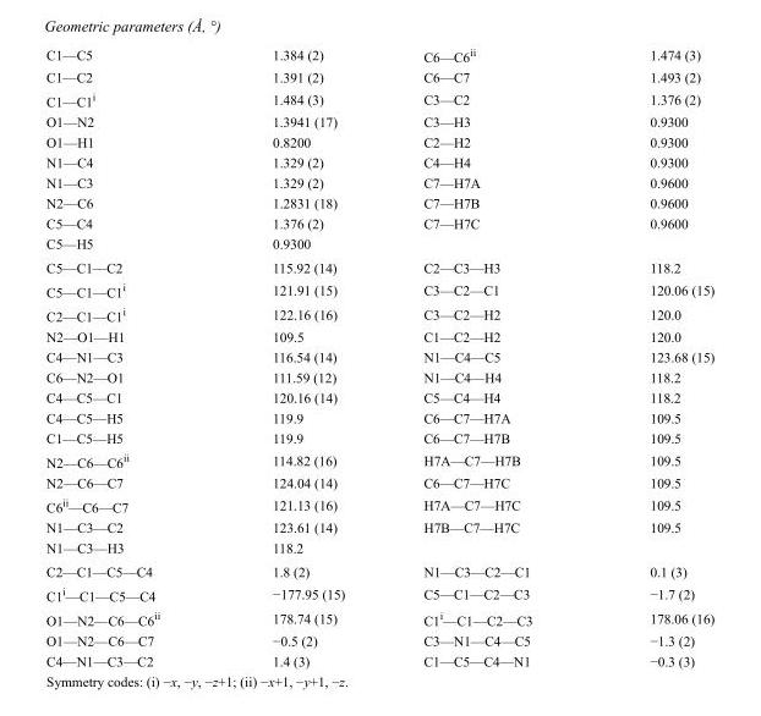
<table><tbody><tr><td>C1—C5</td><td>1.384 (2)</td><td>C6—C6<sup>ii</sup></td><td>1.474 (3)</td></tr><tr><td>C1—C2</td><td>1.391 (2)</td><td>C6—C7</td><td>1.493 (2)</td></tr><tr><td>C1—C1<sup>i</sup></td><td>1.484 (3)</td><td>C3—C2</td><td>1.376 (2)</td></tr><tr><td>O1—N2</td><td>1.3941 (17)</td><td>C3—H3</td><td>0.9300</td></tr><tr><td>O1—H1</td><td>0.8200</td><td>C2—H2</td><td>0.9300</td></tr><tr><td>N1—C4</td><td>1.329 (2)</td><td>C4—H4</td><td>0.9300</td></tr><tr><td>N1—C3</td><td>1.329 (2)</td><td>C7—H7A</td><td>0.9600</td></tr><tr><td>N2—C6</td><td>1.2831 (18)</td><td>C7—H7B</td><td>0.9600</td></tr><tr><td>C5—C4</td><td>1.376 (2)</td><td>C7—H7C</td><td>0.9600</td></tr><tr><td>C5—H5</td><td>0.9300</td><td></td><td></td></tr><tr><td>C5—C1—C2</td><td>115.92 (14)</td><td>C2—C3—H3</td><td>118.2</td></tr><tr><td>C5—C1—C1<sup>i</sup></td><td>121.91 (15)</td><td>C3—C2—C1</td><td>120.06 (15)</td></tr><tr><td>C2—C1—C1<sup>i</sup></td><td>122.16 (16)</td><td>C3—C2—H2</td><td>120.0</td></tr><tr><td>N2—O1—H1</td><td>109.5</td><td>C1—C2—H2</td><td>120.0</td></tr><tr><td>C4—N1—C3</td><td>116.54 (14)</td><td>N1—C4—C5</td><td>123.68 (15)</td></tr><tr><td>C6—N2—O1</td><td>111.59 (12)</td><td>N1—C4—H4</td><td>118.2</td></tr><tr><td>C4—C5—C1</td><td>120.16 (14)</td><td>C5—C4—H4</td><td>118.2</td></tr><tr><td>C4—C5—H5</td><td>119.9</td><td>C6—C7—H7A</td><td>109.5</td></tr><tr><td>C1—C5—H5</td><td>119.9</td><td>C6—C7—H7B</td><td>109.5</td></tr><tr><td>N2—C6—C6<sup>ii</sup></td><td>114.82 (16)</td><td>H7A—C7—H7B</td><td>109.5</td></tr><tr><td>N2—C6—C7</td><td>124.04 (14)</td><td>C6—C7—H7C</td><td>109.5</td></tr><tr><td>C6<sup>ii</sup>—C6—C7</td><td>121.13 (16)</td><td>H7A—C7—H7C</td><td>109.5</td></tr><tr><td>N1—C3—C2</td><td>123.61 (14)</td><td>H7B—C7—H7C</td><td>109.5</td></tr><tr><td>N1—C3—H3</td><td>118.2</td><td></td><td></td></tr><tr><td>C2—C1—C5—C4</td><td>1.8 (2)</td><td>N1—C3—C2—C1</td><td>0.1 (3)</td></tr><tr><td>C1<sup>i</sup>—C1—C5—C4</td><td>−177.95 (15)</td><td>C5—C1—C2—C3</td><td>−1.7 (2)</td></tr><tr><td>O1—N2—C6—C6<sup>ii</sup></td><td>178.74 (15)</td><td>C1<sup>i</sup>—C1—C2—C3</td><td>178.06 (16)</td></tr><tr><td>O1—N2—C6—C7</td><td>−0.5 (2)</td><td>C3—N1—C4—C5</td><td>−1.3 (2)</td></tr><tr><td>C4—N1—C3—C2</td><td>1.4 (3)</td><td>C1—C5—C4—N1</td><td>−0.3 (3)</td></tr></tbody></table>